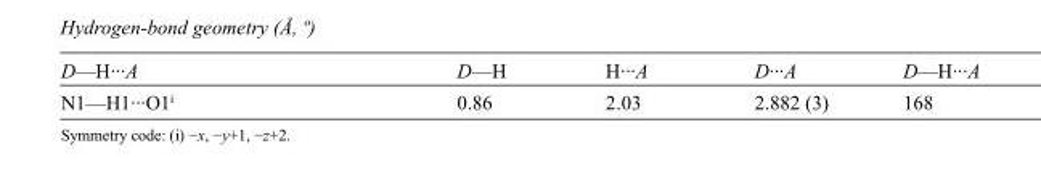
<table><tbody><tr><td>D—H···A</td><td>D—H</td><td>H···A</td><td>D···A</td><td>D—H···A</td></tr><tr><td>N1—H1···O1<sup>i</sup></td><td>0.86</td><td>2.03</td><td>2.882 (3)</td><td>168</td></tr></tbody></table>